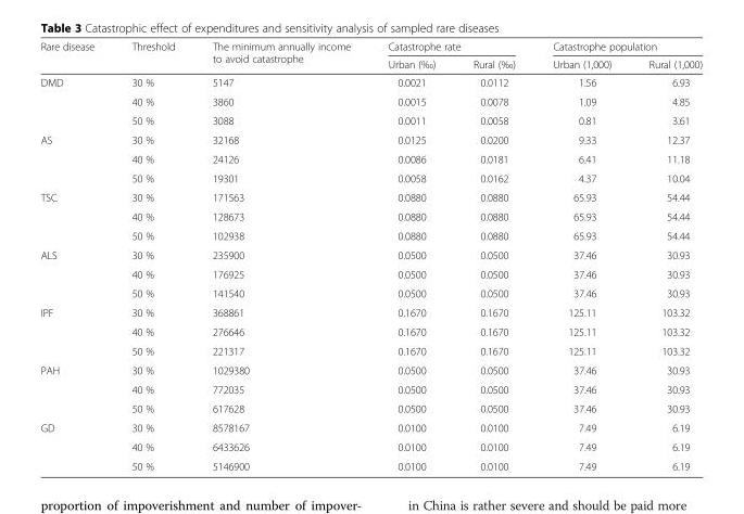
<table><thead><tr><td rowspan="2">Rare disease</td><td rowspan="2">Threshold</td><td rowspan="2">The minimum annually income to avoid catastrophe</td><td colspan="2">Catastrophe rate</td><td colspan="2">Catastrophe population</td></tr><tr><td>Urban (‰)</td><td>Rural (‰)</td><td>Urban (1,000)</td><td>Rural (1,000)</td></tr></thead><tbody><tr><td rowspan="3">DMD</td><td>30 %</td><td>5147</td><td>0.0021</td><td>0.0112</td><td>1.56</td><td>6.93</td></tr><tr><td>40 %</td><td>3860</td><td>0.0015</td><td>0.0078</td><td>1.09</td><td>4.85</td></tr><tr><td>50 %</td><td>3088</td><td>0.0011</td><td>0.0058</td><td>0.81</td><td>3.61</td></tr><tr><td rowspan="3">AS</td><td>30 %</td><td>32168</td><td>0.0125</td><td>0.0200</td><td>9.33</td><td>12.37</td></tr><tr><td>40 %</td><td>24126</td><td>0.0086</td><td>0.0181</td><td>6.41</td><td>11.18</td></tr><tr><td>50 %</td><td>19301</td><td>0.0058</td><td>0.0162</td><td>4.37</td><td>10.04</td></tr><tr><td rowspan="3">TSC</td><td>30 %</td><td>171563</td><td>0.0880</td><td>0.0880</td><td>65.93</td><td>54.44</td></tr><tr><td>40 %</td><td>128673</td><td>0.0880</td><td>0.0880</td><td>65.93</td><td>54.44</td></tr><tr><td>50 %</td><td>102938</td><td>0.0880</td><td>0.0880</td><td>65.93</td><td>54.44</td></tr><tr><td rowspan="3">ALS</td><td>30 %</td><td>235900</td><td>0.0500</td><td>0.0500</td><td>37.46</td><td>30.93</td></tr><tr><td>40 %</td><td>176925</td><td>0.0500</td><td>0.0500</td><td>37.46</td><td>30.93</td></tr><tr><td>50 %</td><td>141540</td><td>0.0500</td><td>0.0500</td><td>37.46</td><td>30.93</td></tr><tr><td rowspan="3">IPF</td><td>30 %</td><td>368861</td><td>0.1670</td><td>0.1670</td><td>125.11</td><td>103.32</td></tr><tr><td>40 %</td><td>276646</td><td>0.1670</td><td>0.1670</td><td>125.11</td><td>103.32</td></tr><tr><td>50 %</td><td>221317</td><td>0.1670</td><td>0.1670</td><td>125.11</td><td>103.32</td></tr><tr><td rowspan="3">PAH</td><td>30 %</td><td>1029380</td><td>0.0500</td><td>0.0500</td><td>37.46</td><td>30.93</td></tr><tr><td>40 %</td><td>772035</td><td>0.0500</td><td>0.0500</td><td>37.46</td><td>30.93</td></tr><tr><td>50 %</td><td>617628</td><td>0.0500</td><td>0.0500</td><td>37.46</td><td>30.93</td></tr><tr><td rowspan="3">GD</td><td>30 %</td><td>8578167</td><td>0.0100</td><td>0.0100</td><td>7.49</td><td>6.19</td></tr><tr><td>40 %</td><td>6433626</td><td>0.0100</td><td>0.0100</td><td>7.49</td><td>6.19</td></tr><tr><td>50 %</td><td>5146900</td><td>0.0100</td><td>0.0100</td><td>7.49</td><td>6.19</td></tr></tbody></table>